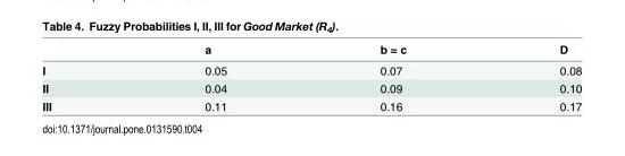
<table><thead><tr><td></td><td>a</td><td>b = c</td><td>D</td></tr></thead><tbody><tr><td>I</td><td>0.05</td><td>0.07</td><td>0.08</td></tr><tr><td>II</td><td>0.04</td><td>0.09</td><td>0.10</td></tr><tr><td>III</td><td>0.11</td><td>0.16</td><td>0.17</td></tr></tbody></table>